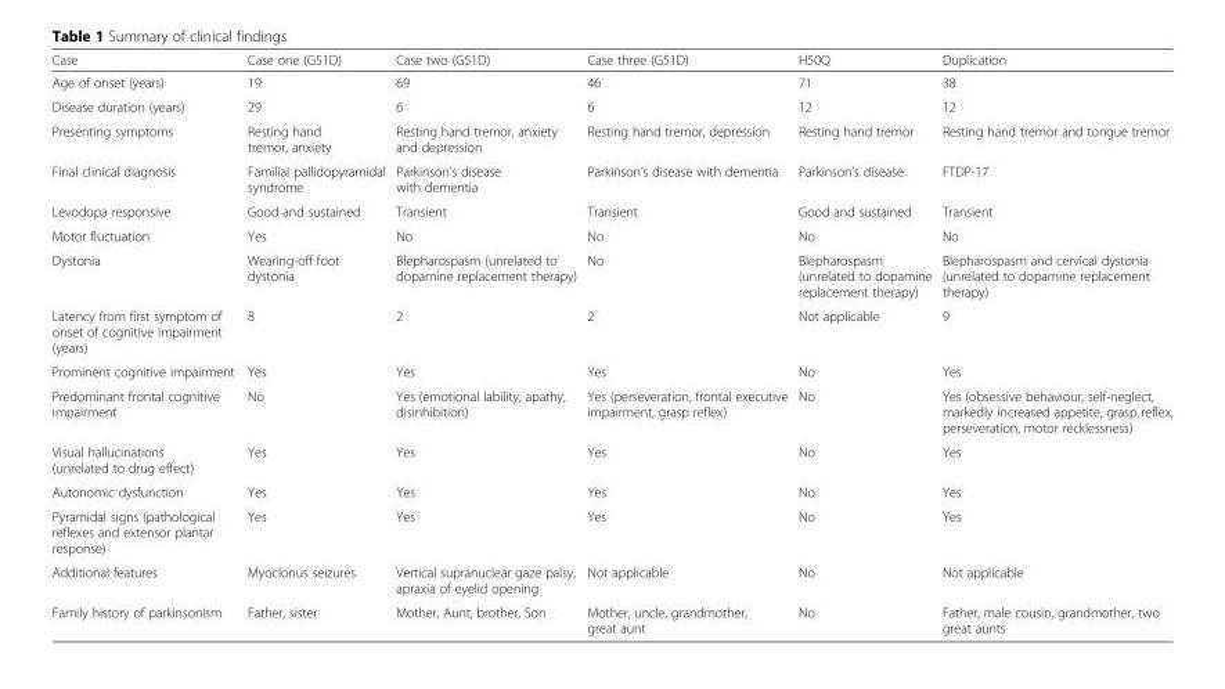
<table><thead><tr><td>Case</td><td>Case one (G51D)</td><td>Case two (G51D)</td><td>Case three (G51D)</td><td>H50Q</td><td>Duplication</td></tr></thead><tbody><tr><td>Age of onset (years)</td><td>19</td><td>69</td><td>46</td><td>71</td><td>38</td></tr><tr><td>Disease duration (years)</td><td>29</td><td>6</td><td>6</td><td>12</td><td>12</td></tr><tr><td>Presenting symptoms</td><td>Resting hand tremor, anxiety</td><td>Resting hand tremor, anxiety and depression</td><td>Resting hand tremor, depression</td><td>Resting hand tremor</td><td>Resting hand tremor and tongue tremor</td></tr><tr><td>Final clinical diagnosis</td><td>Familial pallidopyramidal syndrome</td><td>Parkinson’s disease with dementia</td><td>Parkinson’s disease with dementia</td><td>Parkinson’s disease</td><td>FTDP-17</td></tr><tr><td>Levodopa responsive</td><td>Good and sustained</td><td>Transient</td><td>Transient</td><td>Good and sustained</td><td>Transient</td></tr><tr><td>Motor fluctuation</td><td>Yes</td><td>No</td><td>No</td><td>No</td><td>No</td></tr><tr><td>Dystonia</td><td>Wearing-off foot dystonia</td><td>Blepharospasm (unrelated to dopamine replacement therapy)</td><td>No</td><td>Blepharospasm (unrelated to dopamine replacement therapy)</td><td>Blepharospasm and cervical dystonia (unrelated to dopamine replacement therapy)</td></tr><tr><td>Latency from first symptom of onset of cognitive impairment (years)</td><td>8</td><td>2</td><td>2</td><td>Not applicable</td><td>9</td></tr><tr><td>Prominent cognitive impairment</td><td>Yes</td><td>Yes</td><td>Yes</td><td>No</td><td>Yes</td></tr><tr><td>Predominant frontal cognitive impairment</td><td>No</td><td>Yes (emotional lability, apathy, disinhibition)</td><td>Yes (perseveration, frontal executive impairment, grasp reflex)</td><td>No</td><td>Yes (obsessive behaviour, self-neglect, markedly increased appetite, grasp reflex, perseveration, motor recklessness)</td></tr><tr><td>Visual hallucinations (unrelated to drug effect)</td><td>Yes</td><td>Yes</td><td>Yes</td><td>No</td><td>Yes</td></tr><tr><td>Autonomic dysfunction</td><td>Yes</td><td>Yes</td><td>Yes</td><td>No</td><td>Yes</td></tr><tr><td>Pyramidal signs (pathological reflexes and extensor plantar response)</td><td>Yes</td><td>Yes</td><td>Yes</td><td>No</td><td>Yes</td></tr><tr><td>Additional features</td><td>Myoclonus seizures</td><td>Vertical supranuclear gaze palsy, apraxia of eyelid opening</td><td>Not applicable</td><td>No</td><td>Not applicable</td></tr><tr><td>Family history of parkinsonism</td><td>Father, sister</td><td>Mother, Aunt, brother, Son</td><td>Mother, uncle, grandmother, great aunt</td><td>No</td><td>Father, male cousin, grandmother, two great aunts</td></tr></tbody></table>